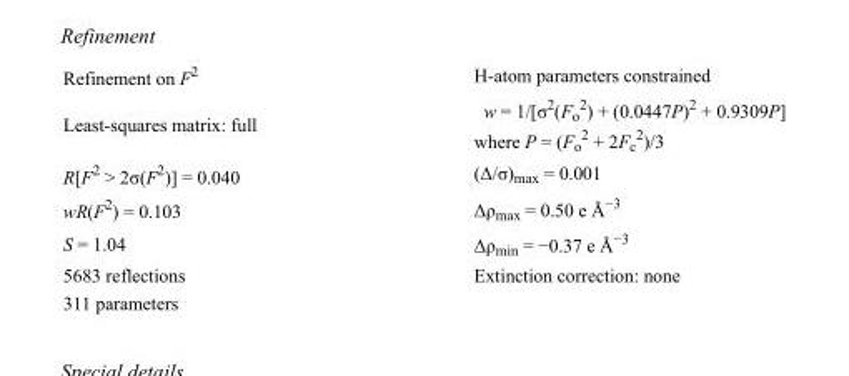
<table><tbody><tr><td>Refinement on F<sup>2</sup></td><td>H-atom parameters constrained</td></tr><tr><td>Least-squares matrix: full</td><td>w = 1/[σ<sup>2</sup>(F<sub>o</sub> <sup>2</sup>) + (0.0447P)<sup>2</sup> + 0.9309P] where P = (F<sub>o</sub> <sup>2</sup> + 2F<sub>c</sub> <sup>2</sup>)/3</td></tr><tr><td>R[F<sup>2</sup> &gt; 2σ(F<sup>2</sup>)] = 0.040</td><td>(Δ/σ)<sub>max</sub> = 0.001</td></tr><tr><td>wR(F<sup>2</sup>) = 0.103</td><td>Δρ<sub>max</sub> = 0.50 e Å<sup>−3</sup></td></tr><tr><td>S = 1.04</td><td>Δρ<sub>min</sub> = −0.37 e Å<sup>−3</sup></td></tr><tr><td>5683 reflections</td><td>Extinction correction: none</td></tr><tr><td>311 parameters</td><td></td></tr></tbody></table>